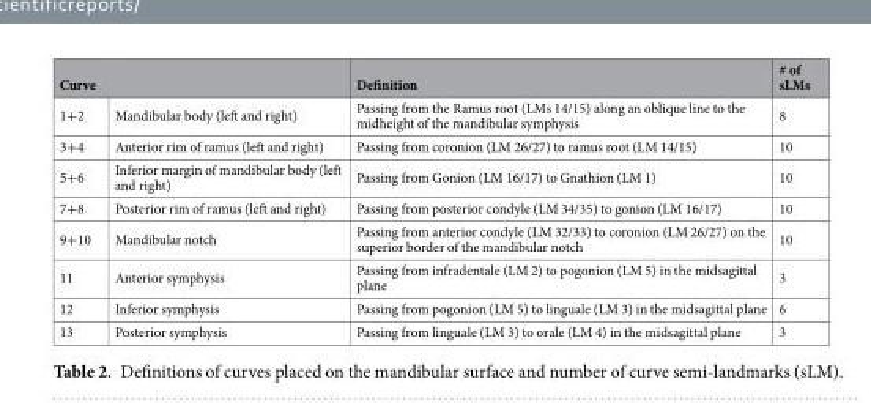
<table><thead><tr><td colspan="2">Curve</td><td rowspan="2">Definition Passing from the Ramus root (LMs 14/15) along an oblique line to the midheight of the mandibular symphysis</td><td rowspan="2"># of sLMs 8</td></tr><tr><td>1+2</td><td>Mandibular body (left and right)</td></tr></thead><tbody><tr><td>3+4</td><td>Anterior rim of ramus (left and right)</td><td>Passing from coronion (LM 26/27) to ramus root (LM 14/15)</td><td>10</td></tr><tr><td>5+6</td><td>Inferior margin of mandibular body (left and right)</td><td>Passing from Gonion (LM 16/17) to Gnathion (LM 1)</td><td>10</td></tr><tr><td>7+8</td><td>Posterior rim of ramus (left and right)</td><td>Passing from posterior condyle (LM 34/35) to gonion (LM 16/17)</td><td>10</td></tr><tr><td>9+10</td><td>Mandibular notch</td><td>Passing from anterior condyle (LM 32/33) to coronion (LM 26/27) on the superior border of the mandibular notch</td><td>10</td></tr><tr><td>11</td><td>Anterior symphysis</td><td>Passing from infradentale (LM 2) to pogonion (LM 5) in the midsagittal plane</td><td>3</td></tr><tr><td>12</td><td>Inferior symphysis</td><td>Passing from pogonion (LM 5) to linguale (LM 3) in the midsagittal plane</td><td>6</td></tr><tr><td>13</td><td>Posterior symphysis</td><td>Passing from linguale (LM 3) to orale (LM 4) in the midsagittal plane</td><td>3</td></tr></tbody></table>